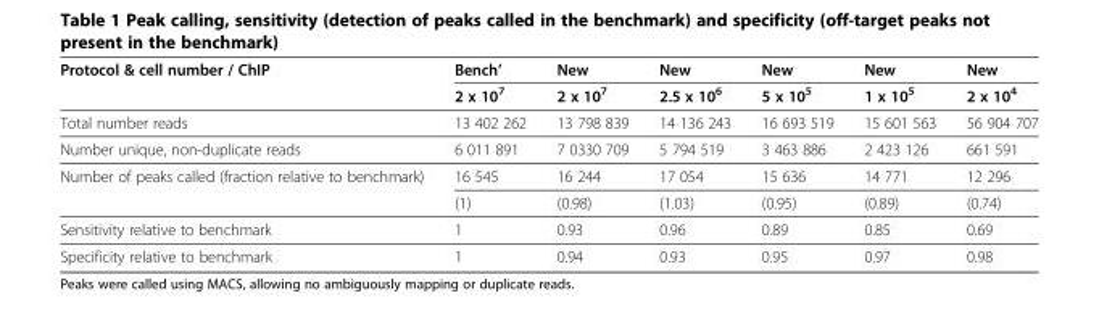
<table><thead><tr><td rowspan="2">Protocol &amp; cell number / ChIP</td><td rowspan="2">Bench’ 2 x 10<sup>7</sup></td><td rowspan="2">New 2 x 10<sup>7</sup></td><td rowspan="2">New 2.5 x 10<sup>6</sup></td><td rowspan="2">New 5 x 10<sup>5</sup></td><td rowspan="2">New 1 x 10<sup>5</sup></td><td rowspan="2">New 2 x 10<sup>4</sup></td></tr><tr></tr></thead><tbody><tr><td>Total number reads</td><td>13 402 262</td><td>13 798 839</td><td>14 136 243</td><td>16 693 519</td><td>15 601 563</td><td>56 904 707</td></tr><tr><td>Number unique, non-duplicate reads</td><td>6 011 891</td><td>7 0330 709</td><td>5 794 519</td><td>3 463 886</td><td>2 423 126</td><td>661 591</td></tr><tr><td rowspan="2">Number of peaks called (fraction relative to benchmark)</td><td>16 545</td><td>16 244</td><td>17 054</td><td>15 636</td><td>14 771</td><td>12 296</td></tr><tr><td>(1)</td><td>(0.98)</td><td>(1.03)</td><td>(0.95)</td><td>(0.89)</td><td>(0.74)</td></tr><tr><td>Sensitivity relative to benchmark</td><td>1</td><td>0.93</td><td>0.96</td><td>0.89</td><td>0.85</td><td>0.69</td></tr><tr><td>Specificity relative to benchmark</td><td>1</td><td>0.94</td><td>0.93</td><td>0.95</td><td>0.97</td><td>0.98</td></tr></tbody></table>